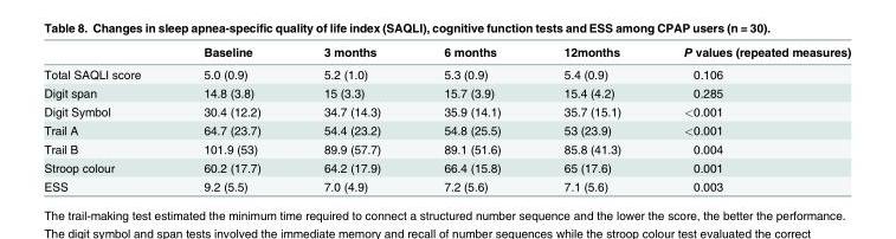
<table><thead><tr><td></td><td>Baseline</td><td>3 months</td><td>6 months</td><td>12months</td><td>P values (repeated measures)</td></tr></thead><tbody><tr><td>Total SAQLI score</td><td>5.0 (0.9)</td><td>5.2 (1.0)</td><td>5.3 (0.9)</td><td>5.4 (0.9)</td><td>0.106</td></tr><tr><td>Digit span</td><td>14.8 (3.8)</td><td>15 (3.3)</td><td>15.7 (3.9)</td><td>15.4 (4.2)</td><td>0.285</td></tr><tr><td>Digit Symbol</td><td>30.4 (12.2)</td><td>34.7 (14.3)</td><td>35.9 (14.1)</td><td>35.7 (15.1)</td><td>&lt;0.001</td></tr><tr><td>Trail A</td><td>64.7 (23.7)</td><td>54.4 (23.2)</td><td>54.8 (25.5)</td><td>53 (23.9)</td><td>&lt;0.001</td></tr><tr><td>Trail B</td><td>101.9 (53)</td><td>89.9 (57.7)</td><td>89.1 (51.6)</td><td>85.8 (41.3)</td><td>0.004</td></tr><tr><td>Stroop colour</td><td>60.2 (17.7)</td><td>64.2 (17.9)</td><td>66.4 (15.8)</td><td>65 (17.6)</td><td>0.001</td></tr><tr><td>ESS</td><td>9.2 (5.5)</td><td>7.0 (4.9)</td><td>7.2 (5.6)</td><td>7.1 (5.6)</td><td>0.003</td></tr></tbody></table>